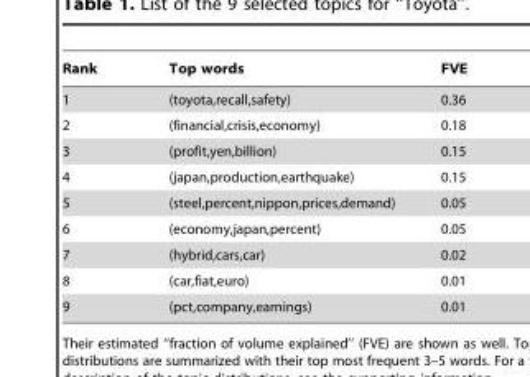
<table><thead><tr><td>Rank</td><td>Top words</td><td>FVE</td></tr></thead><tbody><tr><td>1</td><td>(toyota,recall,safety)</td><td>0.36</td></tr><tr><td>2</td><td>(financial,crisis,economy)</td><td>0.18</td></tr><tr><td>3</td><td>(profit,yen,billion)</td><td>0.15</td></tr><tr><td>4</td><td>(japan,production,earthquake)</td><td>0.15</td></tr><tr><td>5</td><td>(steel,percent,nippon,prices,demand)</td><td>0.05</td></tr><tr><td>6</td><td>(economy,japan,percent)</td><td>0.05</td></tr><tr><td>7</td><td>(hybrid,cars,car)</td><td>0.02</td></tr><tr><td>8</td><td>(car,fiat,euro)</td><td>0.01</td></tr><tr><td>9</td><td>(pct,company,earnings)</td><td>0.01</td></tr></tbody></table>